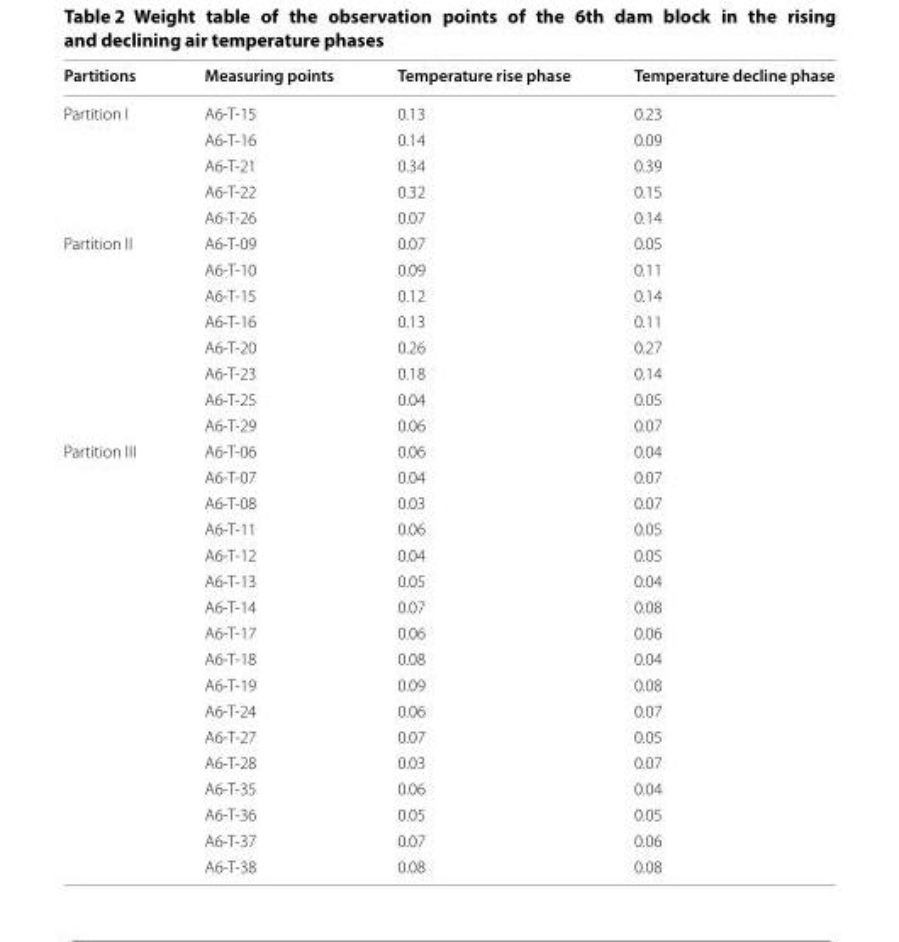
<table><thead><tr><td>Partitions</td><td>Measuring points</td><td>Temperature rise phase</td><td>Temperature decline phase</td></tr></thead><tbody><tr><td rowspan="5">Partition I</td><td>A6-T-15</td><td>0.13</td><td>0.23</td></tr><tr><td>A6-T-16</td><td>0.14</td><td>0.09</td></tr><tr><td>A6-T-21</td><td>0.34</td><td>0.39</td></tr><tr><td>A6-T-22</td><td>0.32</td><td>0.15</td></tr><tr><td>A6-T-26</td><td>0.07</td><td>0.14</td></tr><tr><td rowspan="8">Partition II</td><td>A6-T-09</td><td>0.07</td><td>0.05</td></tr><tr><td>A6-T-10</td><td>0.09</td><td>0.11</td></tr><tr><td>A6-T-15</td><td>0.12</td><td>0.14</td></tr><tr><td>A6-T-16</td><td>0.13</td><td>0.11</td></tr><tr><td>A6-T-20</td><td>0.26</td><td>0.27</td></tr><tr><td>A6-T-23</td><td>0.18</td><td>0.14</td></tr><tr><td>A6-T-25</td><td>0.04</td><td>0.05</td></tr><tr><td>A6-T-29</td><td>0.06</td><td>0.07</td></tr><tr><td rowspan="17">Partition III</td><td>A6-T-06</td><td>0.06</td><td>0.04</td></tr><tr><td>A6-T-07</td><td>0.04</td><td>0.07</td></tr><tr><td>A6-T-08</td><td>0.03</td><td>0.07</td></tr><tr><td>A6-T-11</td><td>0.06</td><td>0.05</td></tr><tr><td>A6-T-12</td><td>0.04</td><td>0.05</td></tr><tr><td>A6-T-13</td><td>0.05</td><td>0.04</td></tr><tr><td>A6-T-14</td><td>0.07</td><td>0.08</td></tr><tr><td>A6-T-17</td><td>0.06</td><td>0.06</td></tr><tr><td>A6-T-18</td><td>0.08</td><td>0.04</td></tr><tr><td>A6-T-19</td><td>0.09</td><td>0.08</td></tr><tr><td>A6-T-24</td><td>0.06</td><td>0.07</td></tr><tr><td>A6-T-27</td><td>0.07</td><td>0.05</td></tr><tr><td>A6-T-28</td><td>0.03</td><td>0.07</td></tr><tr><td>A6-T-35</td><td>0.06</td><td>0.04</td></tr><tr><td>A6-T-36</td><td>0.05</td><td>0.05</td></tr><tr><td>A6-T-37</td><td>0.07</td><td>0.06</td></tr><tr><td>A6-T-38</td><td>0.08</td><td>0.08</td></tr></tbody></table>